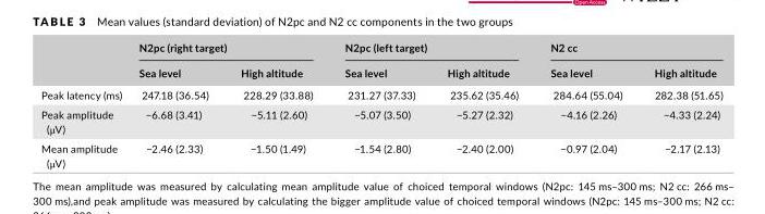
<table><thead><tr><td rowspan="2"></td><td colspan="2">N2pc (right target)</td><td colspan="2">N2pc (left target)</td><td colspan="2">N2 cc</td></tr><tr><td>Sea level</td><td>High altitude</td><td>Sea level</td><td>High altitude</td><td>Sea level</td><td>High altitude</td></tr></thead><tbody><tr><td>Peak latency (ms)</td><td>247.18 (36.54)</td><td>228.29 (33.88)</td><td>231.27 (37.33)</td><td>235.62 (35.46)</td><td>284.64 (55.04)</td><td>282.38 (51.65)</td></tr><tr><td>Peak amplitude (μV)</td><td>−6.68 (3.41)</td><td>−5.11 (2.60)</td><td>−5.07 (3.50)</td><td>−5.27 (2.32)</td><td>−4.16 (2.26)</td><td>−4.33 (2.24)</td></tr><tr><td>Mean amplitude (μV)</td><td>−2.46 (2.33)</td><td>−1.50 (1.49)</td><td>−1.54 (2.80)</td><td>−2.40 (2.00)</td><td>−0.97 (2.04)</td><td>−2.17 (2.13)</td></tr></tbody></table>